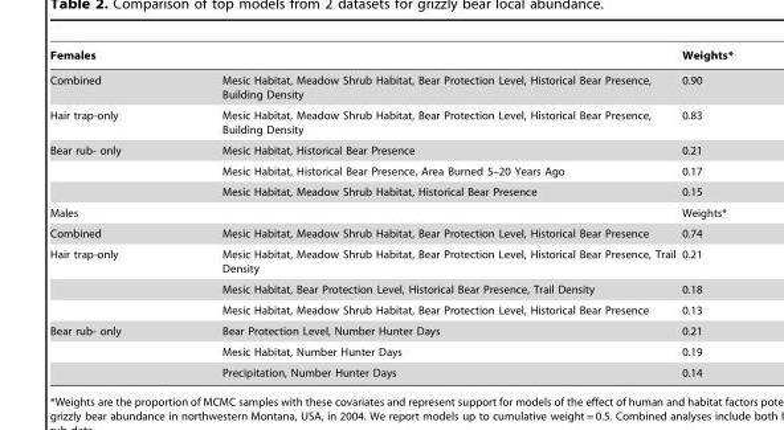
<table><thead><tr><td>Females</td><td></td><td>Weights*</td></tr></thead><tbody><tr><td>Combined</td><td>Mesic Habitat, Meadow Shrub Habitat, Bear Protection Level, Historical Bear Presence, Building Density</td><td>0.90</td></tr><tr><td>Hair trap-only</td><td>Mesic Habitat, Meadow Shrub Habitat, Bear Protection Level, Historical Bear Presence, Building Density</td><td>0.83</td></tr><tr><td rowspan="3">Bear rub- only</td><td>Mesic Habitat, Historical Bear Presence</td><td>0.21</td></tr><tr><td>Mesic Habitat, Historical Bear Presence, Area Burned 5–20 Years Ago</td><td>0.17</td></tr><tr><td>Mesic Habitat, Meadow Shrub Habitat, Historical Bear Presence</td><td>0.15</td></tr><tr><td>Males</td><td></td><td>Weights*</td></tr><tr><td>Combined</td><td>Mesic Habitat, Meadow Shrub Habitat, Bear Protection Level, Historical Bear Presence</td><td>0.74</td></tr><tr><td rowspan="3">Hair trap-only</td><td>Mesic Habitat, Meadow Shrub Habitat, Bear Protection Level, Historical Bear Presence, Trail Density</td><td>0.21</td></tr><tr><td>Mesic Habitat, Bear Protection Level, Historical Bear Presence, Trail Density</td><td>0.18</td></tr><tr><td>Mesic Habitat, Meadow Shrub Habitat, Bear Protection Level, Historical Bear Presence</td><td>0.13</td></tr><tr><td rowspan="3">Bear rub- only</td><td>Bear Protection Level, Number Hunter Days</td><td>0.21</td></tr><tr><td>Mesic Habitat, Number Hunter Days</td><td>0.19</td></tr><tr><td>Precipitation, Number Hunter Days</td><td>0.14</td></tr></tbody></table>